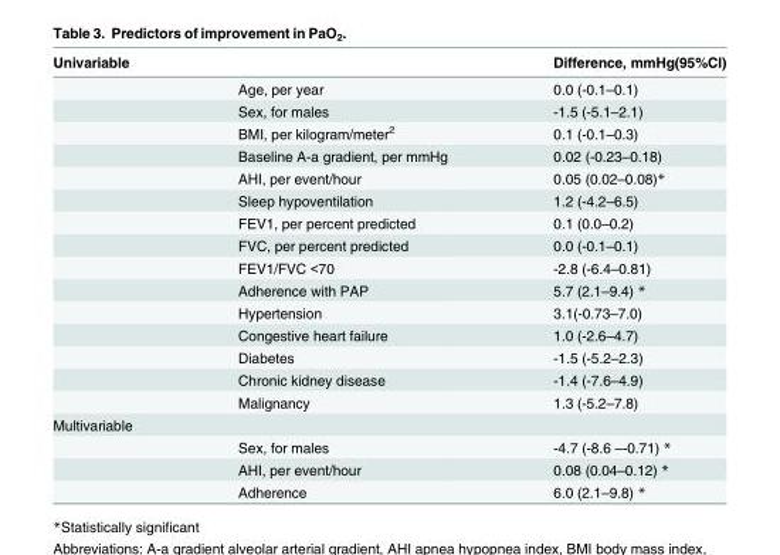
<table><thead><tr><td>Univariable</td><td></td><td>Difference, mmHg(95%CI)</td></tr></thead><tbody><tr><td></td><td>Age, per year</td><td>0.0 (-0.1–0.1)</td></tr><tr><td></td><td>Sex, for males</td><td>-1.5 (-5.1–2.1)</td></tr><tr><td></td><td>BMI, per kilogram/meter<sup>2</sup></td><td>0.1 (-0.1–0.3)</td></tr><tr><td></td><td>Baseline A-a gradient, per mmHg</td><td>0.02 (-0.23–0.18)</td></tr><tr><td></td><td>AHI, per event/hour</td><td>0.05 (0.02–0.08)*</td></tr><tr><td></td><td>Sleep hypoventilation</td><td>1.2 (-4.2–6.5)</td></tr><tr><td></td><td>FEV1, per percent predicted</td><td>0.1 (0.0–0.2)</td></tr><tr><td></td><td>FVC, per percent predicted</td><td>0.0 (-0.1–0.1)</td></tr><tr><td></td><td>FEV1/FVC &lt;70</td><td>-2.8 (-6.4–0.81)</td></tr><tr><td></td><td>Adherence with PAP</td><td>5.7 (2.1–9.4) *</td></tr><tr><td></td><td>Hypertension</td><td>3.1(-0.73–7.0)</td></tr><tr><td></td><td>Congestive heart failure</td><td>1.0 (-2.6–4.7)</td></tr><tr><td></td><td>Diabetes</td><td>-1.5 (-5.2–2.3)</td></tr><tr><td></td><td>Chronic kidney disease</td><td>-1.4 (-7.6–4.9)</td></tr><tr><td></td><td>Malignancy</td><td>1.3 (-5.2–7.8)</td></tr><tr><td colspan="3">Multivariable</td></tr><tr><td></td><td>Sex, for males</td><td>-4.7 (-8.6 –-0.71) *</td></tr><tr><td></td><td>AHI, per event/hour</td><td>0.08 (0.04–0.12) *</td></tr><tr><td></td><td>Adherence</td><td>6.0 (2.1–9.8) *</td></tr></tbody></table>